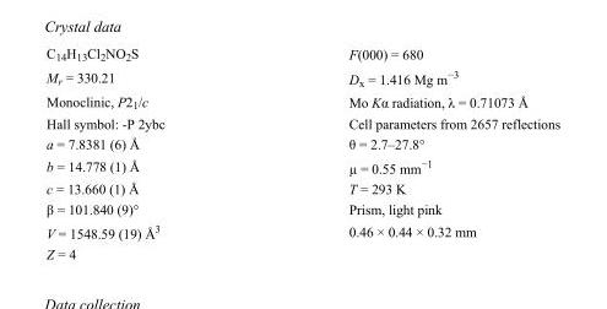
<table><tbody><tr><td>C<sub>14</sub>H<sub>13</sub>Cl<sub>2</sub>NO<sub>2</sub>S</td><td>F(000) = 680</td></tr><tr><td>M<sub>r</sub> = 330.21</td><td>D<sub>x</sub> = 1.416 Mg m<sup>−3</sup></td></tr><tr><td>Monoclinic, P2<sub>1</sub>/c</td><td>Mo Kα radiation, λ = 0.71073 Å</td></tr><tr><td>Hall symbol: -P 2ybc</td><td>Cell parameters from 2657 reflections</td></tr><tr><td>a = 7.8381 (6) Å</td><td>θ = 2.7–27.8°</td></tr><tr><td>b = 14.778 (1) Å</td><td>µ = 0.55 mm<sup>−1</sup></td></tr><tr><td>c = 13.660 (1) Å</td><td>T = 293 K</td></tr><tr><td>β = 101.840 (9)°</td><td>Prism, light pink</td></tr><tr><td>V = 1548.59 (19) Å<sup>3</sup></td><td>0.46 × 0.44 × 0.32 mm</td></tr><tr><td>Z = 4</td><td></td></tr></tbody></table>